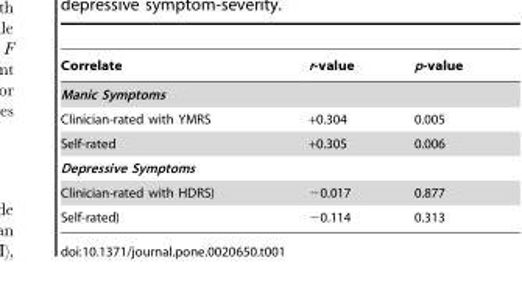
<table><thead><tr><td>Correlate</td><td>r-value</td><td>p-value</td></tr></thead><tbody><tr><td colspan="3">Manic Symptoms</td></tr><tr><td>Clinician-rated with YMRS</td><td>+0.304</td><td>0.005</td></tr><tr><td>Self-rated</td><td>+0.305</td><td>0.006</td></tr><tr><td colspan="3">Depressive Symptoms</td></tr><tr><td>Clinician-rated with HDRS)</td><td>−0.017</td><td>0.877</td></tr><tr><td>Self-rated)</td><td>−0.114</td><td>0.313</td></tr></tbody></table>